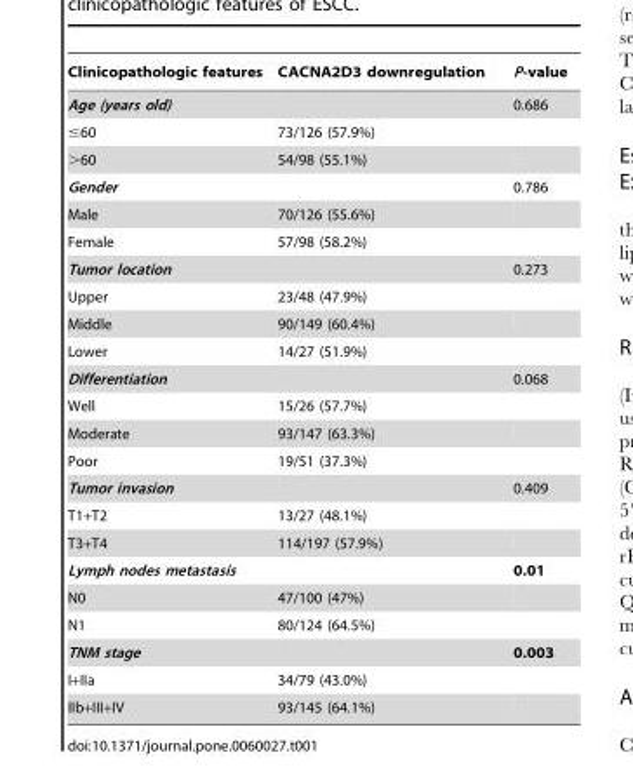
<table><thead><tr><td>Clinicopathologic features</td><td>CACNA2D3 downregulation</td><td>P-value</td></tr></thead><tbody><tr><td>Age (years old)</td><td></td><td>0.686</td></tr><tr><td>≤60</td><td>73/126 (57.9%)</td><td></td></tr><tr><td>&gt;60</td><td>54/98 (55.1%)</td><td></td></tr><tr><td>Gender</td><td></td><td>0.786</td></tr><tr><td>Male</td><td>70/126 (55.6%)</td><td></td></tr><tr><td>Female</td><td>57/98 (58.2%)</td><td></td></tr><tr><td>Tumor location</td><td></td><td>0.273</td></tr><tr><td>Upper</td><td>23/48 (47.9%)</td><td></td></tr><tr><td>Middle</td><td>90/149 (60.4%)</td><td></td></tr><tr><td>Lower</td><td>14/27 (51.9%)</td><td></td></tr><tr><td>Differentiation</td><td></td><td>0.068</td></tr><tr><td>Well</td><td>15/26 (57.7%)</td><td></td></tr><tr><td>Moderate</td><td>93/147 (63.3%)</td><td></td></tr><tr><td>Poor</td><td>19/51 (37.3%)</td><td></td></tr><tr><td>Tumor invasion</td><td></td><td>0.409</td></tr><tr><td>T1+T2</td><td>13/27 (48.1%)</td><td></td></tr><tr><td>T3+T4</td><td>114/197 (57.9%)</td><td></td></tr><tr><td>Lymph nodes metastasis</td><td></td><td>0.01</td></tr><tr><td>N0</td><td>47/100 (47%)</td><td></td></tr><tr><td>N1</td><td>80/124 (64.5%)</td><td></td></tr><tr><td>TNM stage</td><td></td><td>0.003</td></tr><tr><td>I+IIa</td><td>34/79 (43.0%)</td><td></td></tr><tr><td>IIb+III+IV</td><td>93/145 (64.1%)</td><td></td></tr></tbody></table>